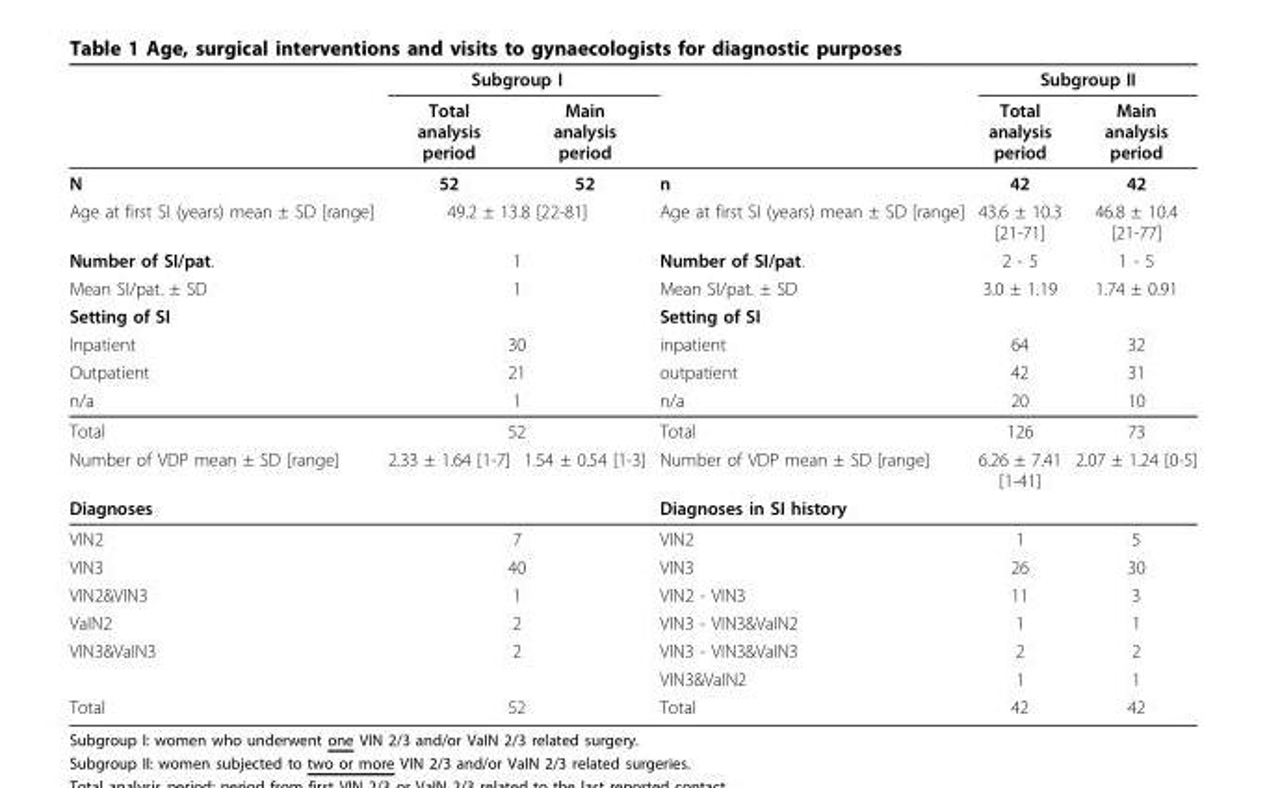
<table><thead><tr><td rowspan="2"></td><td colspan="2">Subgroup I</td><td rowspan="2"></td><td colspan="2">Subgroup II</td></tr><tr><td>Total analysis period</td><td>Main analysis period</td><td>Total analysis period</td><td>Main analysis period</td></tr></thead><tbody><tr><td>N</td><td>52</td><td>52</td><td>n</td><td>42</td><td>42</td></tr><tr><td>Age at first SI (years) mean ± SD [range]</td><td colspan="2">49.2 ± 13.8 [22-81]</td><td>Age at first SI (years) mean ± SD [range]</td><td>43.6 ± 10.3 [21-71]</td><td>46.8 ± 10.4 [21-77]</td></tr><tr><td>Number of SI/pat.</td><td colspan="2">1</td><td>Number of SI/pat.</td><td>2 - 5</td><td>1 - 5</td></tr><tr><td>Mean SI/pat. ± SD</td><td colspan="2">1</td><td>Mean SI/pat. ± SD</td><td>3.0 ± 1.19</td><td>1.74 ± 0.91</td></tr><tr><td>Setting of SI</td><td></td><td></td><td>Setting of SI</td><td></td><td></td></tr><tr><td>Inpatient</td><td colspan="2">30</td><td>inpatient</td><td>64</td><td>32</td></tr><tr><td>Outpatient</td><td colspan="2">21</td><td>outpatient</td><td>42</td><td>31</td></tr><tr><td>n/a</td><td colspan="2">1</td><td>n/a</td><td>20</td><td>10</td></tr><tr><td>Total</td><td colspan="2">52</td><td>Total</td><td>126</td><td>73</td></tr><tr><td>Number of VDP mean ± SD [range]</td><td>2.33 ± 1.64 [1-7]</td><td>1.54 ± 0.54 [1-3]</td><td>Number of VDP mean ± SD [range]</td><td>6.26 ± 7.41 [1-41]</td><td>2.07 ± 1.24 [0-5]</td></tr><tr><td colspan="3">Diagnoses</td><td colspan="3">Diagnoses in SI history</td></tr><tr><td>VIN2</td><td colspan="2">7</td><td>VIN2</td><td>1</td><td>5</td></tr><tr><td>VIN3</td><td colspan="2">40</td><td>VIN3</td><td>26</td><td>30</td></tr><tr><td>VIN2&amp;VIN3</td><td colspan="2">1</td><td>VIN2 - VIN3</td><td>11</td><td>3</td></tr><tr><td>VaIN2</td><td colspan="2">2</td><td>VIN3 - VIN3&amp;VaIN2</td><td>1</td><td>1</td></tr><tr><td rowspan="2">VIN3&amp;VaIN3</td><td colspan="2">2</td><td>VIN3 - VIN3&amp;VaIN3</td><td>2</td><td>2</td></tr><tr><td></td><td></td><td>VIN3&amp;VaIN2</td><td>1</td><td>1</td></tr><tr><td>Total</td><td colspan="2">52</td><td>Total</td><td>42</td><td>42</td></tr></tbody></table>